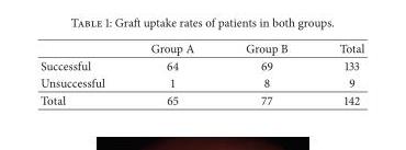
<table><thead><tr><td></td><td>Group A</td><td>Group B</td><td>Total</td></tr></thead><tbody><tr><td>Successful</td><td>64</td><td>69</td><td>133</td></tr><tr><td>Unsuccessful</td><td>1</td><td>8</td><td>9</td></tr><tr><td>Total</td><td>65</td><td>77</td><td>142</td></tr></tbody></table>